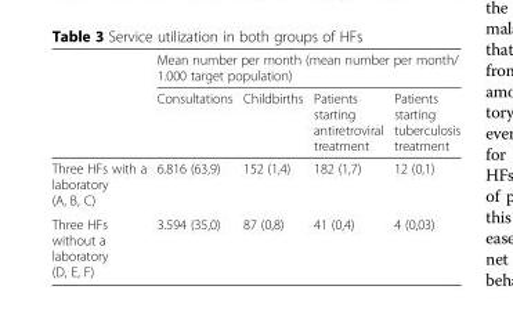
<table><thead><tr><td rowspan="2"></td><td colspan="4">Mean number per month (mean number per month/ 1.000 target population)</td></tr><tr><td>Consultations</td><td>Childbirths</td><td>Patients starting antiretroviral treatment</td><td>Patients starting tuberculosis treatment</td></tr></thead><tbody><tr><td>Three HFs with a laboratory (A, B, C)</td><td>6.816 (63,9)</td><td>152 (1,4)</td><td>182 (1,7)</td><td>12 (0,1)</td></tr><tr><td>Three HFs without a laboratory (D, E, F)</td><td>3.594 (35,0)</td><td>87 (0,8)</td><td>41 (0,4)</td><td>4 (0,03)</td></tr></tbody></table>